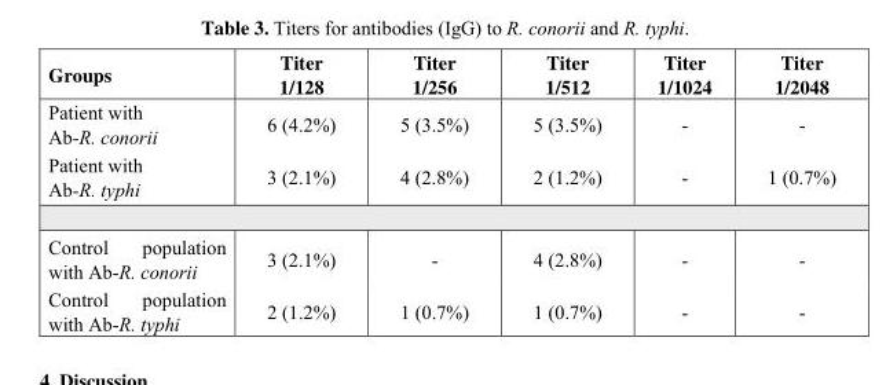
<table><thead><tr><td>Groups</td><td>Titer 1/128</td><td>Titer 1/256</td><td>Titer 1/512</td><td>Titer 1/1024</td><td>Titer 1/2048</td></tr></thead><tbody><tr><td>Patient with Ab-R. conorii</td><td>6 (4.2%)</td><td>5 (3.5%)</td><td>5 (3.5%)</td><td>-</td><td>-</td></tr><tr><td>Patient with Ab-R. typhi</td><td>3 (2.1%)</td><td>4 (2.8%)</td><td>2 (1.2%)</td><td>-</td><td>1 (0.7%)</td></tr><tr><td>Control population with Ab-R. conorii</td><td>3 (2.1%)</td><td>-</td><td>4 (2.8%)</td><td>-</td><td>-</td></tr><tr><td>Control population with Ab-R. typhi</td><td>2 (1.2%)</td><td>1 (0.7%)</td><td>1 (0.7%)</td><td>-</td><td>-</td></tr></tbody></table>